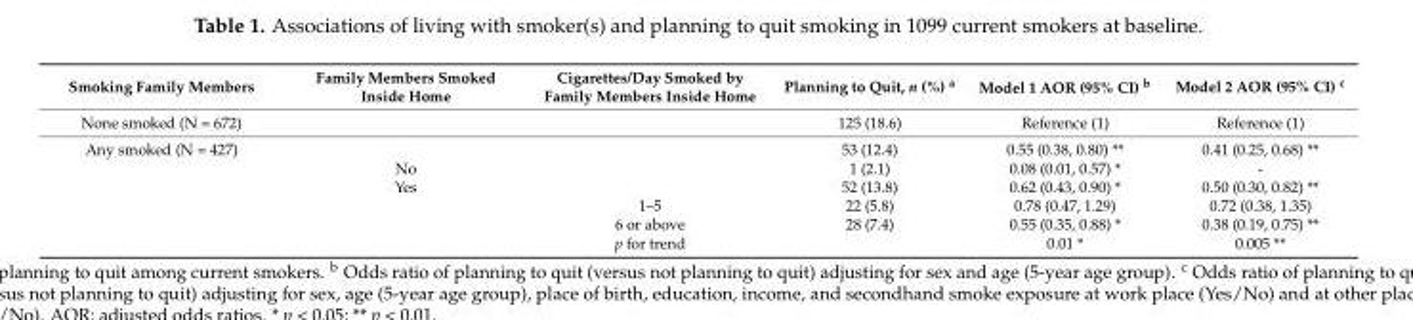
<table><thead><tr><td>Smoking Family Members</td><td>Family Members Smoked Inside Home</td><td>Cigarettes/Day Smoked by Family Members Inside Home</td><td>Planning to Quit, n (%) <sup>a</sup></td><td>Model 1 AOR (95% CI) <sup>b</sup></td><td>Model 2 AOR (95% CI) <sup>c</sup></td></tr></thead><tbody><tr><td>None smoked (N = 672)</td><td></td><td></td><td>125 (18.6)</td><td>Reference (1)</td><td>Reference (1)</td></tr><tr><td rowspan="6">Any smoked (N = 427)</td><td></td><td></td><td>53 (12.4)</td><td>0.55 (0.38, 0.80) **</td><td>0.41 (0.25, 0.68) **</td></tr><tr><td>No</td><td></td><td>1 (2.1)</td><td>0.08 (0.01, 0.57) *</td><td>-</td></tr><tr><td>Yes</td><td></td><td>52 (13.8)</td><td>0.62 (0.43, 0.90) *</td><td>0.50 (0.30, 0.82) **</td></tr><tr><td></td><td>1–5</td><td>22 (5.8)</td><td>0.78 (0.47, 1.29)</td><td>0.72 (0.38, 1.35)</td></tr><tr><td></td><td>6 or above</td><td>28 (7.4)</td><td>0.55 (0.35, 0.88) *</td><td>0.38 (0.19, 0.75) **</td></tr><tr><td></td><td>p for trend</td><td></td><td>0.01 *</td><td>0.005 **</td></tr></tbody></table>